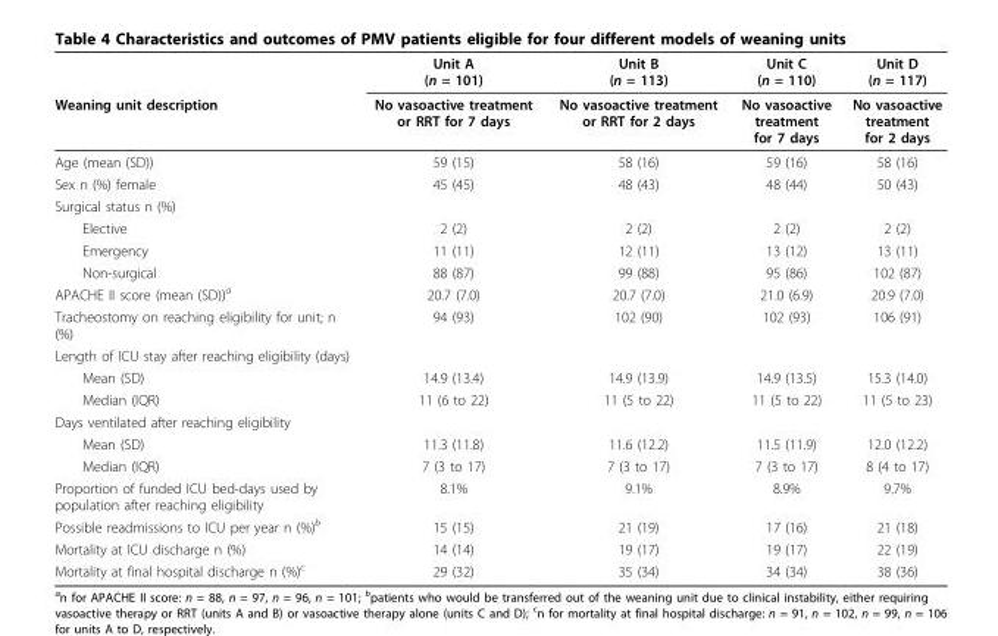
<table><thead><tr><td rowspan="2">Weaning unit description</td><td rowspan="2">Unit A (n = 101) No vasoactive treatment or RRT for 7 days</td><td rowspan="2">Unit B (n = 113) No vasoactive treatment or RRT for 2 days</td><td rowspan="2">Unit C (n = 110) No vasoactive treatment for 7 days</td><td rowspan="2">Unit D (n = 117) No vasoactive treatment for 2 days</td></tr><tr></tr></thead><tbody><tr><td>Age (mean (SD))</td><td>59 (15)</td><td>58 (16)</td><td>59 (16)</td><td>58 (16)</td></tr><tr><td>Sex n (%) female</td><td>45 (45)</td><td>48 (43)</td><td>48 (44)</td><td>50 (43)</td></tr><tr><td colspan="5">Surgical status n (%)</td></tr><tr><td>Elective</td><td>2 (2)</td><td>2 (2)</td><td>2 (2)</td><td>2 (2)</td></tr><tr><td>Emergency</td><td>11 (11)</td><td>12 (11)</td><td>13 (12)</td><td>13 (11)</td></tr><tr><td>Non-surgical</td><td>88 (87)</td><td>99 (88)</td><td>95 (86)</td><td>102 (87)</td></tr><tr><td>APACHE II score (mean (SD))<sup>a</sup></td><td>20.7 (7.0)</td><td>20.7 (7.0)</td><td>21.0 (6.9)</td><td>20.9 (7.0)</td></tr><tr><td>Tracheostomy on reaching eligibility for unit; n (%)</td><td>94 (93)</td><td>102 (90)</td><td>102 (93)</td><td>106 (91)</td></tr><tr><td colspan="5">Length of ICU stay after reaching eligibility (days)</td></tr><tr><td>Mean (SD)</td><td>14.9 (13.4)</td><td>14.9 (13.9)</td><td>14.9 (13.5)</td><td>15.3 (14.0)</td></tr><tr><td>Median (IQR)</td><td>11 (6 to 22)</td><td>11 (5 to 22)</td><td>11 (5 to 22)</td><td>11 (5 to 23)</td></tr><tr><td colspan="5">Days ventilated after reaching eligibility</td></tr><tr><td>Mean (SD)</td><td>11.3 (11.8)</td><td>11.6 (12.2)</td><td>11.5 (11.9)</td><td>12.0 (12.2)</td></tr><tr><td>Median (IQR)</td><td>7 (3 to 17)</td><td>7 (3 to 17)</td><td>7 (3 to 17)</td><td>8 (4 to 17)</td></tr><tr><td>Proportion of funded ICU bed-days used by population after reaching eligibility</td><td>8.1%</td><td>9.1%</td><td>8.9%</td><td>9.7%</td></tr><tr><td>Possible readmissions to ICU per year n (%)<sup>b</sup></td><td>15 (15)</td><td>21 (19)</td><td>17 (16)</td><td>21 (18)</td></tr><tr><td>Mortality at ICU discharge n (%)</td><td>14 (14)</td><td>19 (17)</td><td>19 (17)</td><td>22 (19)</td></tr><tr><td>Mortality at final hospital discharge n (%)<sup>c</sup></td><td>29 (32)</td><td>35 (34)</td><td>34 (34)</td><td>38 (36)</td></tr></tbody></table>